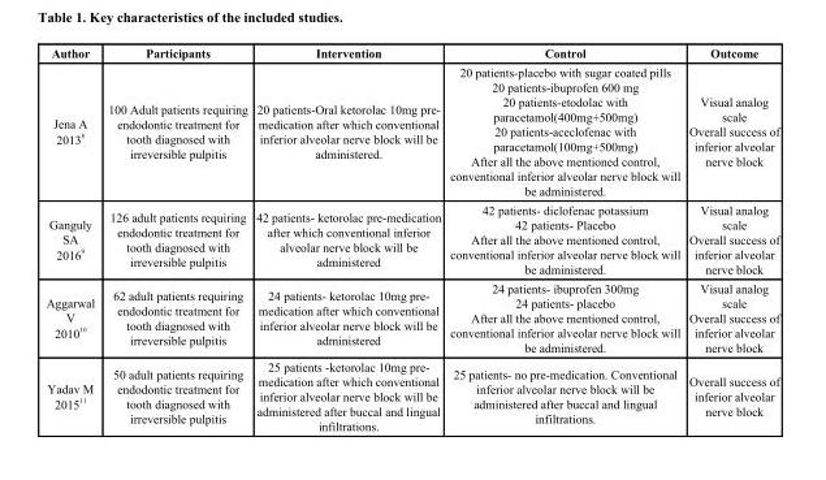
<table><thead><tr><td>Author</td><td>Participants</td><td>Intervention</td><td>Control</td><td>Outcome</td></tr></thead><tbody><tr><td>Jena A 2013 <sup>8</sup></td><td>100 Adult patients requiring endodontic treatment for tooth diagnosed with irreversible pulpitis</td><td>20 patients-Oral ketorolac 10mg pre- medication after which conventional inferior alveolar nerve block will be administered.</td><td>20 patients-placebo with sugar coated pills 20 patients-ibuprofen 600 mg 20 patients-etodolac with paracetamol(400mg+500mg) 20 patients-aceclofenac with paracetamol(100mg+500mg) After all the above mentioned control, conventional inferior alveolar nerve block will be administered.</td><td>Visual analog scale Overall success of inferior alveolar nerve block</td></tr><tr><td>Ganguly SA 2016 <sup>9</sup></td><td>126 adult patients requiring endodontic treatment for tooth diagnosed with irreversible pulpitis</td><td>42 patients- ketorolac pre-medication after which conventional inferior alveolar nerve block will be administered</td><td>42 patients- diclofenac potassium 42 patients- Placebo After all the above mentioned control, conventional inferior alveolar nerve block will be administered.</td><td>Visual analog scale Overall success of inferior alveolar nerve block</td></tr><tr><td>Aggarwal V 2010 <sup>10</sup></td><td>62 adult patients requiring endodontic treatment for tooth diagnosed with irreversible pulpitis</td><td>24 patients- ketorolac 10mg pre- medication after which conventional inferior alveolar nerve block will be administered</td><td>24 patients- ibuprofen 300mg 24 patients- placebo After all the above mentioned control, conventional inferior alveolar nerve block will be administered.</td><td>Visual analog scale Overall success of inferior alveolar nerve block</td></tr><tr><td>Yadav M 2015 <sup>11</sup></td><td>50 adult patients requiring endodontic treatment for tooth diagnosed with irreversible pulpitis</td><td>25 patients -ketorolac 10mg pre- medication after which conventional inferior alveolar nerve block will be administered after buccal and lingual infiltrations.</td><td>25 patients- no pre-medication. Conventional inferior alveolar nerve block will be administered after buccal and lingual infiltrations.</td><td>Overall success of inferior alveolar nerve block</td></tr></tbody></table>